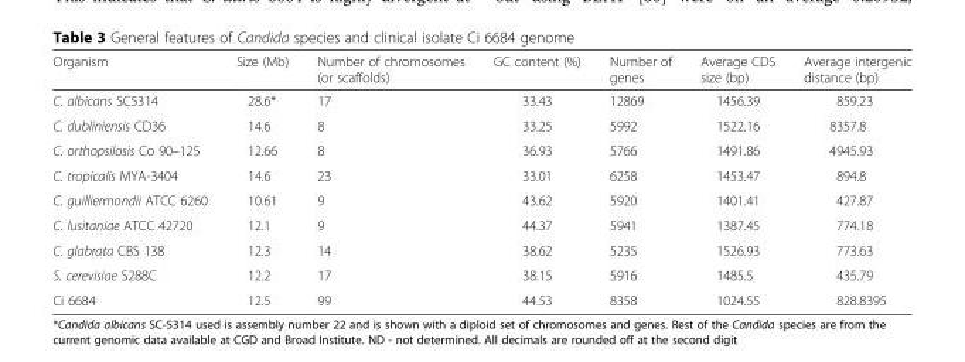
<table><thead><tr><td>Organism</td><td>Size (Mb)</td><td>Number of chromosomes (or scaffolds)</td><td>GC content (%)</td><td>Number of genes</td><td>Average CDS size (bp)</td><td>Average intergenic distance (bp)</td></tr></thead><tbody><tr><td>C. albicans SC5314</td><td>28.6*</td><td>17</td><td>33.43</td><td>12869</td><td>1456.39</td><td>859.23</td></tr><tr><td>C. dubliniensis CD36</td><td>14.6</td><td>8</td><td>33.25</td><td>5992</td><td>1522.16</td><td>8357.8</td></tr><tr><td>C. orthopsilosis Co 90–125</td><td>12.66</td><td>8</td><td>36.93</td><td>5766</td><td>1491.86</td><td>4945.93</td></tr><tr><td>C. tropicalis MYA-3404</td><td>14.6</td><td>23</td><td>33.01</td><td>6258</td><td>1453.47</td><td>894.8</td></tr><tr><td>C. guilliermondii ATCC 6260</td><td>10.61</td><td>9</td><td>43.62</td><td>5920</td><td>1401.41</td><td>427.87</td></tr><tr><td>C. lusitaniae ATCC 42720</td><td>12.1</td><td>9</td><td>44.37</td><td>5941</td><td>1387.45</td><td>774.18</td></tr><tr><td>C. glabrata CBS 138</td><td>12.3</td><td>14</td><td>38.62</td><td>5235</td><td>1526.93</td><td>773.63</td></tr><tr><td>S. cerevisiae S288C</td><td>12.2</td><td>17</td><td>38.15</td><td>5916</td><td>1485.5</td><td>435.79</td></tr><tr><td>Ci 6684</td><td>12.5</td><td>99</td><td>44.53</td><td>8358</td><td>1024.55</td><td>828.8395</td></tr></tbody></table>